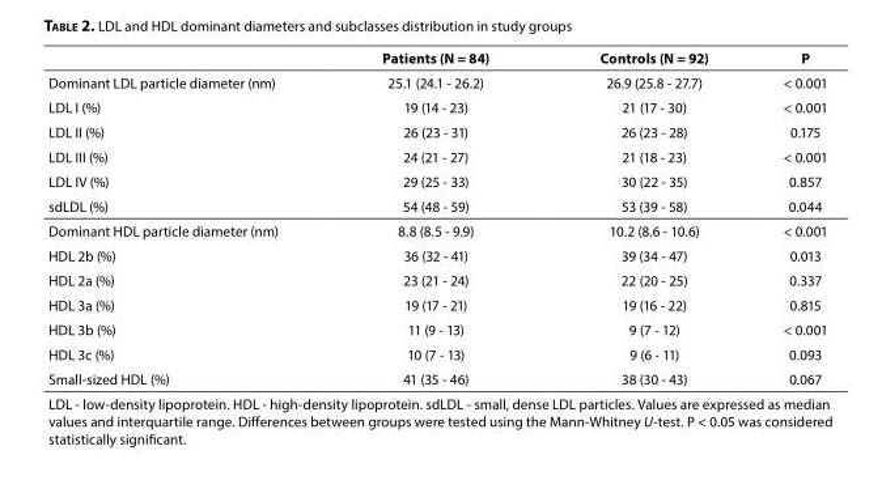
<table><thead><tr><td></td><td>Patients (N = 84)</td><td>Controls (N = 92)</td><td>P</td></tr></thead><tbody><tr><td>Dominant LDL particle diameter (nm)</td><td>25.1 (24.1 - 26.2)</td><td>26.9 (25.8 - 27.7)</td><td>&lt; 0.001</td></tr><tr><td>LDL I (%)</td><td>19 (14 - 23)</td><td>21 (17 - 30)</td><td>&lt; 0.001</td></tr><tr><td>LDL II (%)</td><td>26 (23 - 31)</td><td>26 (23 - 28)</td><td>0.175</td></tr><tr><td>LDL III (%)</td><td>24 (21 - 27)</td><td>21 (18 - 23)</td><td>&lt; 0.001</td></tr><tr><td>LDL IV (%)</td><td>29 (25 - 33)</td><td>30 (22 - 35)</td><td>0.857</td></tr><tr><td>sdLDL (%)</td><td>54 (48 - 59)</td><td>53 (39 - 58)</td><td>0.044</td></tr><tr><td>Dominant HDL particle diameter (nm)</td><td>8.8 (8.5 - 9.9)</td><td>10.2 (8.6 - 10.6)</td><td>&lt; 0.001</td></tr><tr><td>HDL 2b (%)</td><td>36 (32 - 41)</td><td>39 (34 - 47)</td><td>0.013</td></tr><tr><td>HDL 2a (%)</td><td>23 (21 - 24)</td><td>22 (20 - 25)</td><td>0.337</td></tr><tr><td>HDL 3a (%)</td><td>19 (17 - 21)</td><td>19 (16 - 22)</td><td>0.815</td></tr><tr><td>HDL 3b (%)</td><td>11 (9 - 13)</td><td>9 (7 - 12)</td><td>&lt; 0.001</td></tr><tr><td>HDL 3c (%)</td><td>10 (7 - 13)</td><td>9 (6 - 11)</td><td>0.093</td></tr><tr><td>Small-sized HDL (%)</td><td>41 (35 - 46)</td><td>38 (30 - 43)</td><td>0.067</td></tr><tr><td colspan="4">LDL - low-density lipoprotein. HDL - high-density lipoprotein. sdLDL - small, dense LDL particles. Values are expressed as median values and interquartile range. Differences between groups were tested using the Mann-Whitney U-test. P &lt; 0.05 was considered statistically significant.</td></tr></tbody></table>